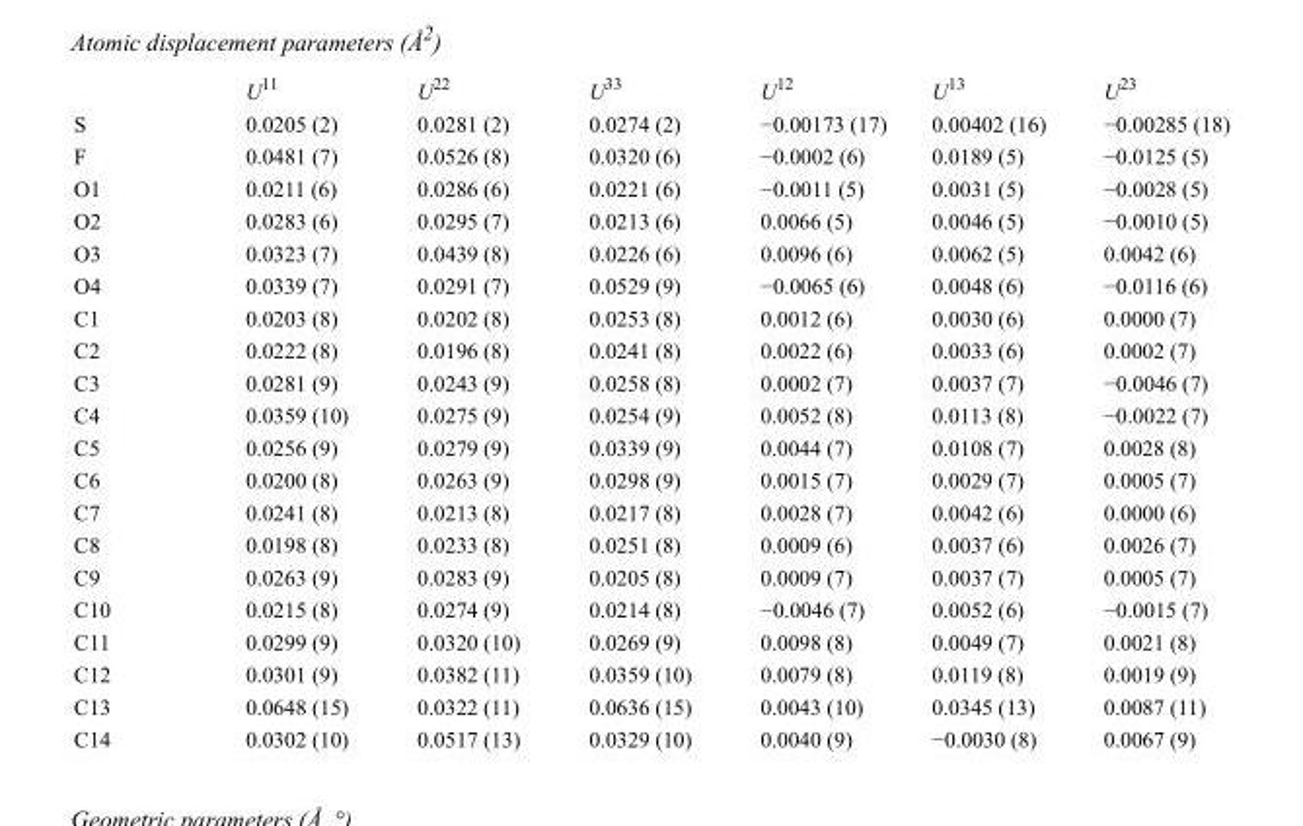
<table><thead><tr><td></td><td>U<sup>11</sup></td><td>U<sup>22</sup></td><td>U<sup>33</sup></td><td>U<sup>12</sup></td><td>U<sup>13</sup></td><td>U<sup>23</sup></td></tr></thead><tbody><tr><td>S</td><td>0.0205 (2)</td><td>0.0281 (2)</td><td>0.0274 (2)</td><td>−0.00173 (17)</td><td>0.00402 (16)</td><td>−0.00285 (18)</td></tr><tr><td>F</td><td>0.0481 (7)</td><td>0.0526 (8)</td><td>0.0320 (6)</td><td>−0.0002 (6)</td><td>0.0189 (5)</td><td>−0.0125 (5)</td></tr><tr><td>O1</td><td>0.0211 (6)</td><td>0.0286 (6)</td><td>0.0221 (6)</td><td>−0.0011 (5)</td><td>0.0031 (5)</td><td>−0.0028 (5)</td></tr><tr><td>O2</td><td>0.0283 (6)</td><td>0.0295 (7)</td><td>0.0213 (6)</td><td>0.0066 (5)</td><td>0.0046 (5)</td><td>−0.0010 (5)</td></tr><tr><td>O3</td><td>0.0323 (7)</td><td>0.0439 (8)</td><td>0.0226 (6)</td><td>0.0096 (6)</td><td>0.0062 (5)</td><td>0.0042 (6)</td></tr><tr><td>O4</td><td>0.0339 (7)</td><td>0.0291 (7)</td><td>0.0529 (9)</td><td>−0.0065 (6)</td><td>0.0048 (6)</td><td>−0.0116 (6)</td></tr><tr><td>C1</td><td>0.0203 (8)</td><td>0.0202 (8)</td><td>0.0253 (8)</td><td>0.0012 (6)</td><td>0.0030 (6)</td><td>0.0000 (7)</td></tr><tr><td>C2</td><td>0.0222 (8)</td><td>0.0196 (8)</td><td>0.0241 (8)</td><td>0.0022 (6)</td><td>0.0033 (6)</td><td>0.0002 (7)</td></tr><tr><td>C3</td><td>0.0281 (9)</td><td>0.0243 (9)</td><td>0.0258 (8)</td><td>0.0002 (7)</td><td>0.0037 (7)</td><td>−0.0046 (7)</td></tr><tr><td>C4</td><td>0.0359 (10)</td><td>0.0275 (9)</td><td>0.0254 (9)</td><td>0.0052 (8)</td><td>0.0113 (8)</td><td>−0.0022 (7)</td></tr><tr><td>C5</td><td>0.0256 (9)</td><td>0.0279 (9)</td><td>0.0339 (9)</td><td>0.0044 (7)</td><td>0.0108 (7)</td><td>0.0028 (8)</td></tr><tr><td>C6</td><td>0.0200 (8)</td><td>0.0263 (9)</td><td>0.0298 (9)</td><td>0.0015 (7)</td><td>0.0029 (7)</td><td>0.0005 (7)</td></tr><tr><td>C7</td><td>0.0241 (8)</td><td>0.0213 (8)</td><td>0.0217 (8)</td><td>0.0028 (7)</td><td>0.0042 (6)</td><td>0.0000 (6)</td></tr><tr><td>C8</td><td>0.0198 (8)</td><td>0.0233 (8)</td><td>0.0251 (8)</td><td>0.0009 (6)</td><td>0.0037 (6)</td><td>0.0026 (7)</td></tr><tr><td>C9</td><td>0.0263 (9)</td><td>0.0283 (9)</td><td>0.0205 (8)</td><td>0.0009 (7)</td><td>0.0037 (7)</td><td>0.0005 (7)</td></tr><tr><td>C10</td><td>0.0215 (8)</td><td>0.0274 (9)</td><td>0.0214 (8)</td><td>−0.0046 (7)</td><td>0.0052 (6)</td><td>−0.0015 (7)</td></tr><tr><td>C11</td><td>0.0299 (9)</td><td>0.0320 (10)</td><td>0.0269 (9)</td><td>0.0098 (8)</td><td>0.0049 (7)</td><td>0.0021 (8)</td></tr><tr><td>C12</td><td>0.0301 (9)</td><td>0.0382 (11)</td><td>0.0359 (10)</td><td>0.0079 (8)</td><td>0.0119 (8)</td><td>0.0019 (9)</td></tr><tr><td>C13</td><td>0.0648 (15)</td><td>0.0322 (11)</td><td>0.0636 (15)</td><td>0.0043 (10)</td><td>0.0345 (13)</td><td>0.0087 (11)</td></tr><tr><td>C14</td><td>0.0302 (10)</td><td>0.0517 (13)</td><td>0.0329 (10)</td><td>0.0040 (9)</td><td>−0.0030 (8)</td><td>0.0067 (9)</td></tr></tbody></table>